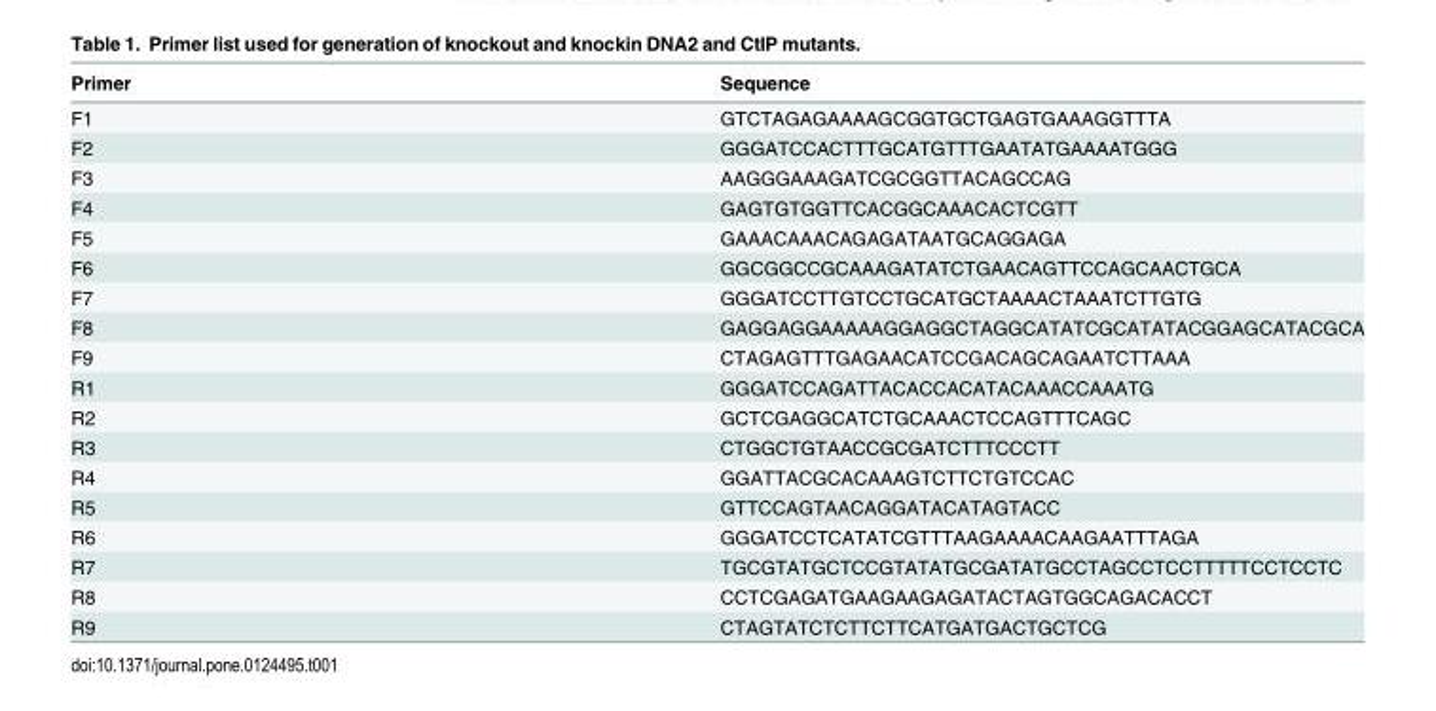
<table><thead><tr><td>Primer</td><td>Sequence</td></tr></thead><tbody><tr><td>F1</td><td>GTCTAGAGAAAAGCGGTGCTGAGTGAAAGGTTTA</td></tr><tr><td>F2</td><td>GGGATCCACTTTGCATGTTTGAATATGAAAATGGG</td></tr><tr><td>F3</td><td>AAGGGAAAGATCGCGGTTACAGCCAG</td></tr><tr><td>F4</td><td>GAGTGTGGTTCACGGCAAACACTCGTT</td></tr><tr><td>F5</td><td>GAAACAAACAGAGATAATGCAGGAGA</td></tr><tr><td>F6</td><td>GGCGGCCGCAAAGATATCTGAACAGTTCCAGCAACTGCA</td></tr><tr><td>F7</td><td>GGGATCCTTGTCCTGCATGCTAAAACTAAATCTTGTG</td></tr><tr><td>F8</td><td>GAGGAGGAAAAAGGAGGCTAGGCATATCGCATATACGGAGCATACGCA</td></tr><tr><td>F9</td><td>CTAGAGTTTGAGAACATCCGACAGCAGAATCTTAAA</td></tr><tr><td>R1</td><td>GGGATCCAGATTACACCACATACAAACCAAATG</td></tr><tr><td>R2</td><td>GCTCGAGGCATCTGCAAACTCCAGTTTCAGC</td></tr><tr><td>R3</td><td>CTGGCTGTAACCGCGATCTTTCCCTT</td></tr><tr><td>R4</td><td>GGATTACGCACAAAGTCTTCTGTCCAC</td></tr><tr><td>R5</td><td>GTTCCAGTAACAGGATACATAGTACC</td></tr><tr><td>R6</td><td>GGGATCCTCATATCGTTTAAGAAAACAAGAATTTAGA</td></tr><tr><td>R7</td><td>TGCGTATGCTCCGTATATGCGATATGCCTAGCCTCCTTTTTCCTCCTC</td></tr><tr><td>R8</td><td>CCTCGAGATGAAGAAGAGATACTAGTGGCAGACACCT</td></tr><tr><td>R9</td><td>CTAGTATCTCTTCTTCATGATGACTGCTCG</td></tr></tbody></table>